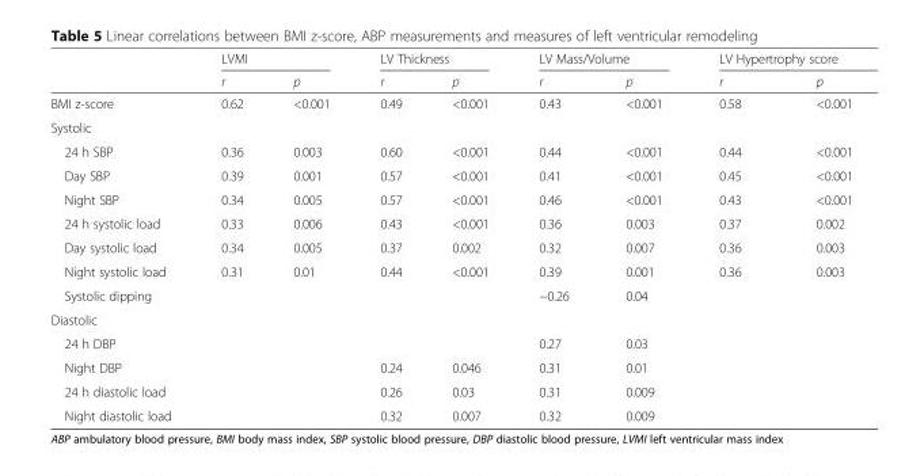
<table><thead><tr><td rowspan="2"></td><td colspan="2">LVMI</td><td colspan="2">LV Thickness</td><td colspan="2">LV Mass/Volume</td><td colspan="2">LV Hypertrophy score</td></tr><tr><td>r</td><td>p</td><td>r</td><td>p</td><td>r</td><td>p</td><td>r</td><td>p</td></tr></thead><tbody><tr><td>BMI z-score</td><td>0.62</td><td>&lt;0.001</td><td>0.49</td><td>&lt;0.001</td><td>0.43</td><td>&lt;0.001</td><td>0.58</td><td>&lt;0.001</td></tr><tr><td colspan="9">Systolic</td></tr><tr><td>24 h SBP</td><td>0.36</td><td>0.003</td><td>0.60</td><td>&lt;0.001</td><td>0.44</td><td>&lt;0.001</td><td>0.44</td><td>&lt;0.001</td></tr><tr><td>Day SBP</td><td>0.39</td><td>0.001</td><td>0.57</td><td>&lt;0.001</td><td>0.41</td><td>&lt;0.001</td><td>0.45</td><td>&lt;0.001</td></tr><tr><td>Night SBP</td><td>0.34</td><td>0.005</td><td>0.57</td><td>&lt;0.001</td><td>0.46</td><td>&lt;0.001</td><td>0.43</td><td>&lt;0.001</td></tr><tr><td>24 h systolic load</td><td>0.33</td><td>0.006</td><td>0.43</td><td>&lt;0.001</td><td>0.36</td><td>0.003</td><td>0.37</td><td>0.002</td></tr><tr><td>Day systolic load</td><td>0.34</td><td>0.005</td><td>0.37</td><td>0.002</td><td>0.32</td><td>0.007</td><td>0.36</td><td>0.003</td></tr><tr><td>Night systolic load</td><td>0.31</td><td>0.01</td><td>0.44</td><td>&lt;0.001</td><td>0.39</td><td>0.001</td><td>0.36</td><td>0.003</td></tr><tr><td>Systolic dipping</td><td></td><td></td><td></td><td></td><td>−0.26</td><td>0.04</td><td></td><td></td></tr><tr><td colspan="9">Diastolic</td></tr><tr><td>24 h DBP</td><td></td><td></td><td></td><td></td><td>0.27</td><td>0.03</td><td></td><td></td></tr><tr><td>Night DBP</td><td></td><td></td><td>0.24</td><td>0.046</td><td>0.31</td><td>0.01</td><td></td><td></td></tr><tr><td>24 h diastolic load</td><td></td><td></td><td>0.26</td><td>0.03</td><td>0.31</td><td>0.009</td><td></td><td></td></tr><tr><td>Night diastolic load</td><td></td><td></td><td>0.32</td><td>0.007</td><td>0.32</td><td>0.009</td><td></td><td></td></tr></tbody></table>